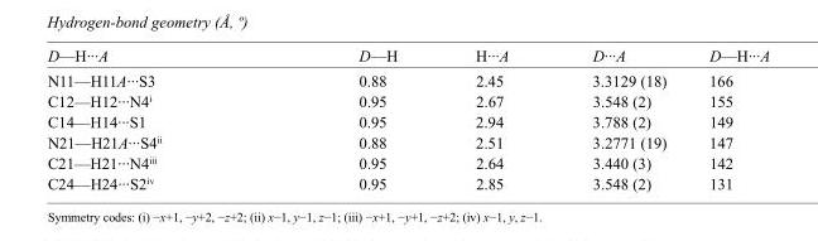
<table><tbody><tr><td>D—H···A</td><td>D—H</td><td>H···A</td><td>D···A</td><td>D—H···A</td></tr><tr><td>N11—H11A···S3</td><td>0.88</td><td>2.45</td><td>3.3129 (18)</td><td>166</td></tr><tr><td>C12—H12···N4<sup>i</sup></td><td>0.95</td><td>2.67</td><td>3.548 (2)</td><td>155</td></tr><tr><td>C14—H14···S1</td><td>0.95</td><td>2.94</td><td>3.788 (2)</td><td>149</td></tr><tr><td>N21—H21A···S4<sup>ii</sup></td><td>0.88</td><td>2.51</td><td>3.2771 (19)</td><td>147</td></tr><tr><td>C21—H21···N4<sup>iii</sup></td><td>0.95</td><td>2.64</td><td>3.440 (3)</td><td>142</td></tr><tr><td>C24—H24···S2<sup>iv</sup></td><td>0.95</td><td>2.85</td><td>3.548 (2)</td><td>131</td></tr></tbody></table>